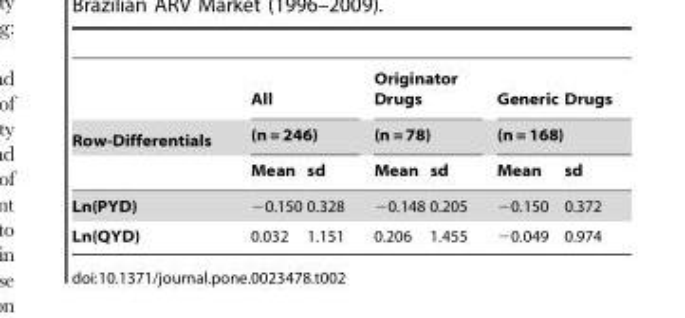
<table><thead><tr><td rowspan="3">Row-Differentials</td><td rowspan="2" colspan="2">All (n = 246)</td><td rowspan="2" colspan="2">Originator Drugs (n = 78)</td><td rowspan="2" colspan="2">Generic Drugs (n = 168)</td></tr><tr></tr><tr><td>Mean</td><td>sd</td><td>Mean</td><td>sd</td><td>Mean</td><td>sd</td></tr></thead><tbody><tr><td>Ln(PYD)</td><td>−0.150</td><td>0.328</td><td>−0.148</td><td>0.205</td><td>−0.150</td><td>0.372</td></tr><tr><td>Ln(QYD)</td><td>0.032</td><td>1.151</td><td>0.206</td><td>1.455</td><td>−0.049</td><td>0.974</td></tr></tbody></table>